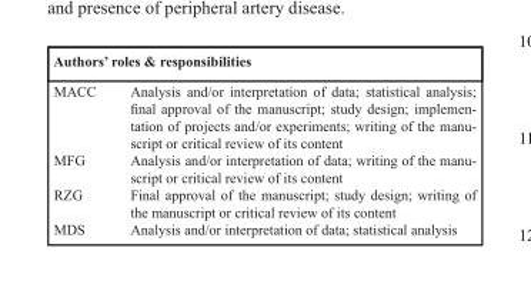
<table><thead><tr><td colspan="2">Authors’ roles &amp; responsibilities</td></tr><tr><td>MACC</td><td>Analysis and/or interpretation of data; statistical analysis; final approval of the manuscript; study design; implemen- tation of projects and/or experiments; writing of the manu- script or critical review of its content</td></tr></thead><tbody><tr><td>MFG</td><td>Analysis and/or interpretation of data; writing of the manu- script or critical review of its content</td></tr><tr><td>RZG</td><td>Final approval of the manuscript; study design; writing of the manuscript or critical review of its content</td></tr><tr><td>MDS</td><td>Analysis and/or interpretation of data; statistical analysis</td></tr></tbody></table>